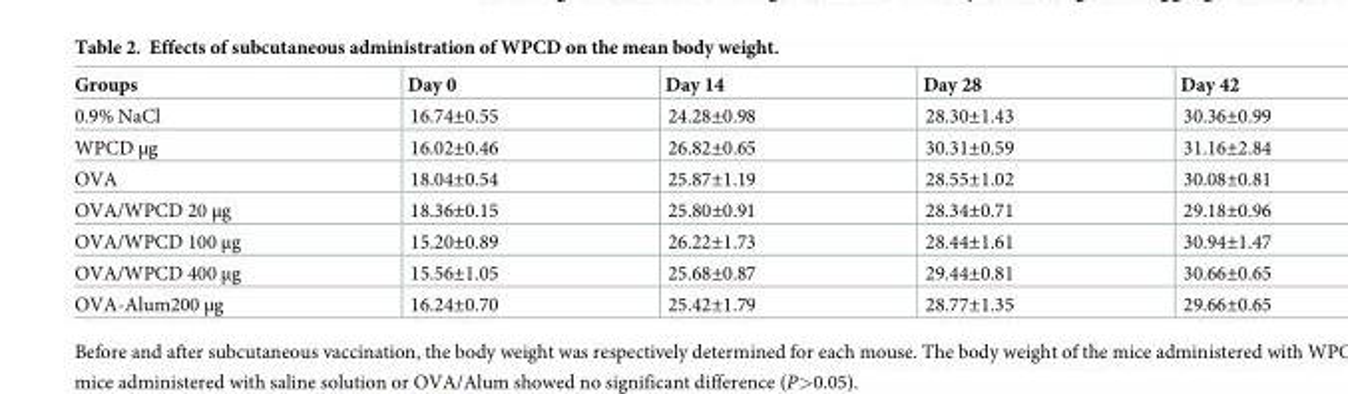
<table><thead><tr><td>Groups</td><td>Day 0</td><td>Day 14</td><td>Day 28</td><td>Day 42</td></tr></thead><tbody><tr><td>0.9% NaCl</td><td>16.74±0.55</td><td>24.28±0.98</td><td>28.30±1.43</td><td>30.36±0.99</td></tr><tr><td>WPCD μg</td><td>16.02±0.46</td><td>26.82±0.65</td><td>30.31±0.59</td><td>31.16±2.84</td></tr><tr><td>OVA</td><td>18.04±0.54</td><td>25.87±1.19</td><td>28.55±1.02</td><td>30.08±0.81</td></tr><tr><td>OVA/WPCD 20 μg</td><td>18.36±0.15</td><td>25.80±0.91</td><td>28.34±0.71</td><td>29.18±0.96</td></tr><tr><td>OVA/WPCD 100 μg</td><td>15.20±0.89</td><td>26.22±1.73</td><td>28.44±1.61</td><td>30.94±1.47</td></tr><tr><td>OVA/WPCD 400 μg</td><td>15.56±1.05</td><td>25.68±0.87</td><td>29.44±0.81</td><td>30.66±0.65</td></tr><tr><td>OVA-Alum200 μg</td><td>16.24±0.70</td><td>25.42±1.79</td><td>28.77±1.35</td><td>29.66±0.65</td></tr></tbody></table>